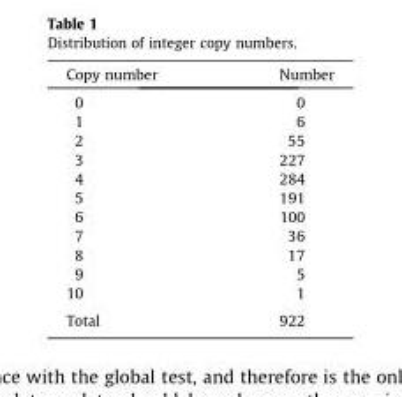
<table><thead><tr><td>Copy number</td><td>Number</td></tr></thead><tbody><tr><td>0</td><td>0</td></tr><tr><td>1</td><td>6</td></tr><tr><td>2</td><td>55</td></tr><tr><td>3</td><td>227</td></tr><tr><td>4</td><td>284</td></tr><tr><td>5</td><td>191</td></tr><tr><td>6</td><td>100</td></tr><tr><td>7</td><td>36</td></tr><tr><td>8</td><td>17</td></tr><tr><td>9</td><td>5</td></tr><tr><td>10</td><td>1</td></tr><tr><td>Total</td><td>922</td></tr></tbody></table>